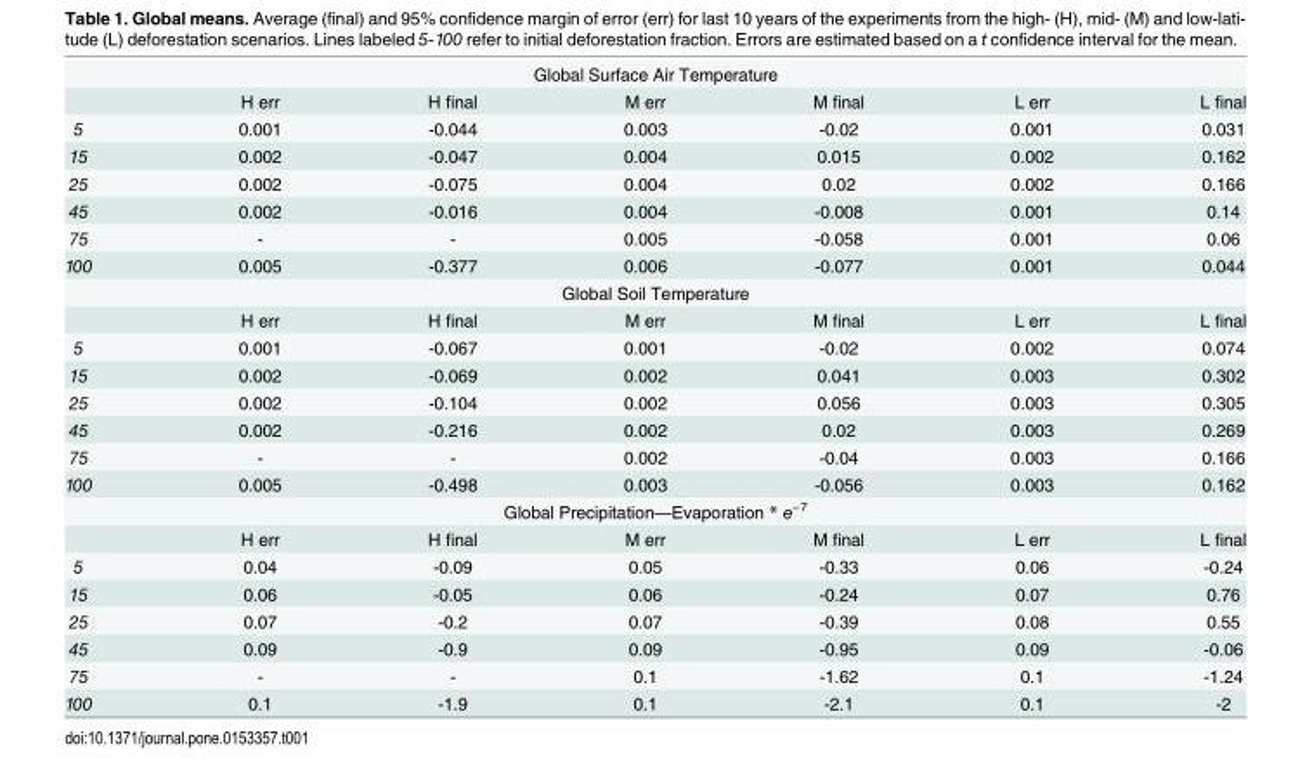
<table><tbody><tr><td colspan="7">Global Surface Air Temperature</td></tr><tr><td></td><td>H err</td><td>H final</td><td>M err</td><td>M final</td><td>L err</td><td>L final</td></tr><tr><td>5</td><td>0.001</td><td>-0.044</td><td>0.003</td><td>-0.02</td><td>0.001</td><td>0.031</td></tr><tr><td>15</td><td>0.002</td><td>-0.047</td><td>0.004</td><td>0.015</td><td>0.002</td><td>0.162</td></tr><tr><td>25</td><td>0.002</td><td>-0.075</td><td>0.004</td><td>0.02</td><td>0.002</td><td>0.166</td></tr><tr><td>45</td><td>0.002</td><td>-0.016</td><td>0.004</td><td>-0.008</td><td>0.001</td><td>0.14</td></tr><tr><td>75</td><td>-</td><td>-</td><td>0.005</td><td>-0.058</td><td>0.001</td><td>0.06</td></tr><tr><td>100</td><td>0.005</td><td>-0.377</td><td>0.006</td><td>-0.077</td><td>0.001</td><td>0.044</td></tr><tr><td colspan="7">Global Soil Temperature</td></tr><tr><td></td><td>H err</td><td>H final</td><td>M err</td><td>M final</td><td>L err</td><td>L final</td></tr><tr><td>5</td><td>0.001</td><td>-0.067</td><td>0.001</td><td>-0.02</td><td>0.002</td><td>0.074</td></tr><tr><td>15</td><td>0.002</td><td>-0.069</td><td>0.002</td><td>0.041</td><td>0.003</td><td>0.302</td></tr><tr><td>25</td><td>0.002</td><td>-0.104</td><td>0.002</td><td>0.056</td><td>0.003</td><td>0.305</td></tr><tr><td>45</td><td>0.002</td><td>-0.216</td><td>0.002</td><td>0.02</td><td>0.003</td><td>0.269</td></tr><tr><td>75</td><td>-</td><td>-</td><td>0.002</td><td>-0.04</td><td>0.003</td><td>0.166</td></tr><tr><td>100</td><td>0.005</td><td>-0.498</td><td>0.003</td><td>-0.056</td><td>0.003</td><td>0.162</td></tr><tr><td colspan="7">Global Precipitation—Evaporation * e<sup>−7</sup></td></tr><tr><td></td><td>H err</td><td>H final</td><td>M err</td><td>M final</td><td>L err</td><td>L final</td></tr><tr><td>5</td><td>0.04</td><td>-0.09</td><td>0.05</td><td>-0.33</td><td>0.06</td><td>-0.24</td></tr><tr><td>15</td><td>0.06</td><td>-0.05</td><td>0.06</td><td>-0.24</td><td>0.07</td><td>0.76</td></tr><tr><td>25</td><td>0.07</td><td>-0.2</td><td>0.07</td><td>-0.39</td><td>0.08</td><td>0.55</td></tr><tr><td>45</td><td>0.09</td><td>-0.9</td><td>0.09</td><td>-0.95</td><td>0.09</td><td>-0.06</td></tr><tr><td>75</td><td>-</td><td>-</td><td>0.1</td><td>-1.62</td><td>0.1</td><td>-1.24</td></tr><tr><td>100</td><td>0.1</td><td>-1.9</td><td>0.1</td><td>-2.1</td><td>0.1</td><td>-2</td></tr></tbody></table>